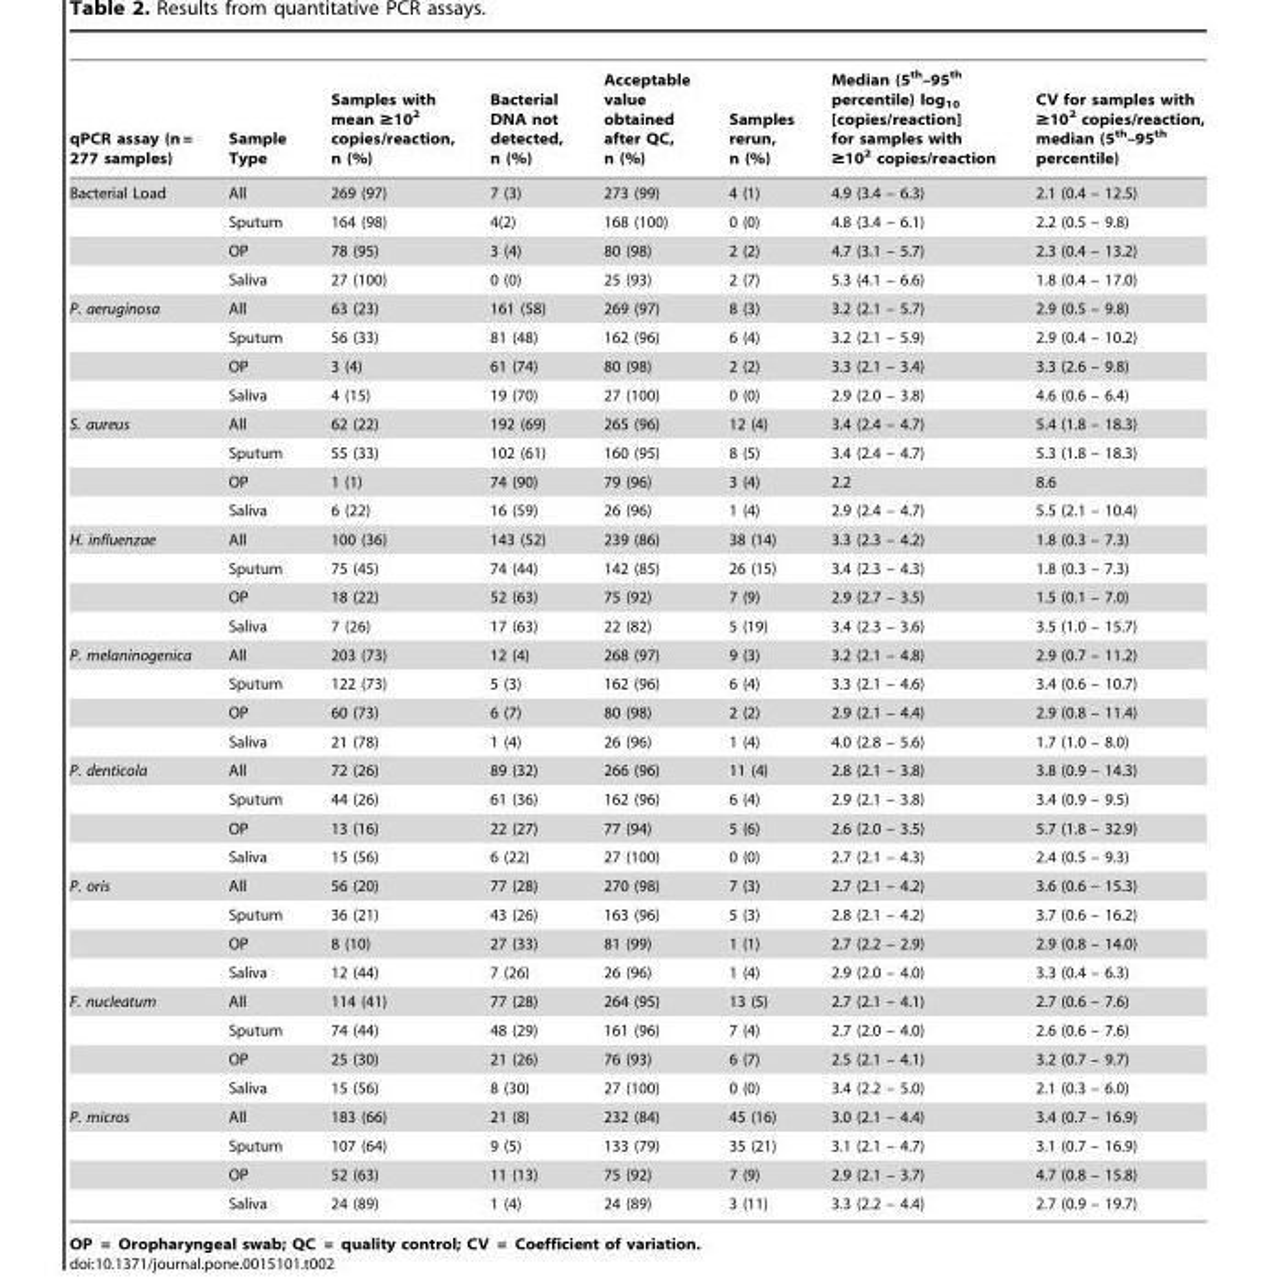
<table><thead><tr><td>qPCR assay (n = 277 samples)</td><td>Sample Type</td><td>Samples with mean ≥10<sup>2</sup> copies/reaction, n (%)</td><td>Bacterial DNA not detected, n (%)</td><td>Acceptable value obtained after QC, n (%)</td><td>Samples rerun, n (%)</td><td>Median (5<sup>th</sup>–95<sup>th</sup> percentile) log<sub>10</sub> [copies/reaction] for samples with ≥10<sup>2</sup> copies/reaction</td><td>CV for samples with ≥10<sup>2</sup> copies/reaction, median (5<sup>th</sup>–95<sup>th</sup> percentile)</td></tr></thead><tbody><tr><td rowspan="4">Bacterial Load</td><td>All</td><td>269 (97)</td><td>7 (3)</td><td>273 (99)</td><td>4 (1)</td><td>4.9 (3.4 – 6.3)</td><td>2.1 (0.4 – 12.5)</td></tr><tr><td>Sputum</td><td>164 (98)</td><td>4(2)</td><td>168 (100)</td><td>0 (0)</td><td>4.8 (3.4 – 6.1)</td><td>2.2 (0.5 – 9.8)</td></tr><tr><td>OP</td><td>78 (95)</td><td>3 (4)</td><td>80 (98)</td><td>2 (2)</td><td>4.7 (3.1 – 5.7)</td><td>2.3 (0.4 – 13.2)</td></tr><tr><td>Saliva</td><td>27 (100)</td><td>0 (0)</td><td>25 (93)</td><td>2 (7)</td><td>5.3 (4.1 – 6.6)</td><td>1.8 (0.4 – 17.0)</td></tr><tr><td rowspan="4">P. aeruginosa</td><td>All</td><td>63 (23)</td><td>161 (58)</td><td>269 (97)</td><td>8 (3)</td><td>3.2 (2.1 – 5.7)</td><td>2.9 (0.5 – 9.8)</td></tr><tr><td>Sputum</td><td>56 (33)</td><td>81 (48)</td><td>162 (96)</td><td>6 (4)</td><td>3.2 (2.1 – 5.9)</td><td>2.9 (0.4 – 10.2)</td></tr><tr><td>OP</td><td>3 (4)</td><td>61 (74)</td><td>80 (98)</td><td>2 (2)</td><td>3.3 (2.1 – 3.4)</td><td>3.3 (2.6 – 9.8)</td></tr><tr><td>Saliva</td><td>4 (15)</td><td>19 (70)</td><td>27 (100)</td><td>0 (0)</td><td>2.9 (2.0 – 3.8)</td><td>4.6 (0.6 – 6.4)</td></tr><tr><td rowspan="4">S. aureus</td><td>All</td><td>62 (22)</td><td>192 (69)</td><td>265 (96)</td><td>12 (4)</td><td>3.4 (2.4 – 4.7)</td><td>5.4 (1.8 – 18.3)</td></tr><tr><td>Sputum</td><td>55 (33)</td><td>102 (61)</td><td>160 (95)</td><td>8 (5)</td><td>3.4 (2.4 – 4.7)</td><td>5.3 (1.8 – 18.3)</td></tr><tr><td>OP</td><td>1 (1)</td><td>74 (90)</td><td>79 (96)</td><td>3 (4)</td><td>2.2</td><td>8.6</td></tr><tr><td>Saliva</td><td>6 (22)</td><td>16 (59)</td><td>26 (96)</td><td>1 (4)</td><td>2.9 (2.4 – 4.7)</td><td>5.5 (2.1 – 10.4)</td></tr><tr><td rowspan="4">H. influenzae</td><td>All</td><td>100 (36)</td><td>143 (52)</td><td>239 (86)</td><td>38 (14)</td><td>3.3 (2.3 – 4.2)</td><td>1.8 (0.3 – 7.3)</td></tr><tr><td>Sputum</td><td>75 (45)</td><td>74 (44)</td><td>142 (85)</td><td>26 (15)</td><td>3.4 (2.3 – 4.3)</td><td>1.8 (0.3 – 7.3)</td></tr><tr><td>OP</td><td>18 (22)</td><td>52 (63)</td><td>75 (92)</td><td>7 (9)</td><td>2.9 (2.7 – 3.5)</td><td>1.5 (0.1 – 7.0)</td></tr><tr><td>Saliva</td><td>7 (26)</td><td>17 (63)</td><td>22 (82)</td><td>5 (19)</td><td>3.4 (2.3 – 3.6)</td><td>3.5 (1.0 – 15.7)</td></tr><tr><td rowspan="4">P. melaninogenica</td><td>All</td><td>203 (73)</td><td>12 (4)</td><td>268 (97)</td><td>9 (3)</td><td>3.2 (2.1 – 4.8)</td><td>2.9 (0.7 – 11.2)</td></tr><tr><td>Sputum</td><td>122 (73)</td><td>5 (3)</td><td>162 (96)</td><td>6 (4)</td><td>3.3 (2.1 – 4.6)</td><td>3.4 (0.6 – 10.7)</td></tr><tr><td>OP</td><td>60 (73)</td><td>6 (7)</td><td>80 (98)</td><td>2 (2)</td><td>2.9 (2.1 – 4.4)</td><td>2.9 (0.8 – 11.4)</td></tr><tr><td>Saliva</td><td>21 (78)</td><td>1 (4)</td><td>26 (96)</td><td>1 (4)</td><td>4.0 (2.8 – 5.6)</td><td>1.7 (1.0 – 8.0)</td></tr><tr><td rowspan="4">P. denticola</td><td>All</td><td>72 (26)</td><td>89 (32)</td><td>266 (96)</td><td>11 (4)</td><td>2.8 (2.1 – 3.8)</td><td>3.8 (0.9 – 14.3)</td></tr><tr><td>Sputum</td><td>44 (26)</td><td>61 (36)</td><td>162 (96)</td><td>6 (4)</td><td>2.9 (2.1 – 3.8)</td><td>3.4 (0.9 – 9.5)</td></tr><tr><td>OP</td><td>13 (16)</td><td>22 (27)</td><td>77 (94)</td><td>5 (6)</td><td>2.6 (2.0 – 3.5)</td><td>5.7 (1.8 – 32.9)</td></tr><tr><td>Saliva</td><td>15 (56)</td><td>6 (22)</td><td>27 (100)</td><td>0 (0)</td><td>2.7 (2.1 – 4.3)</td><td>2.4 (0.5 – 9.3)</td></tr><tr><td rowspan="4">P. oris</td><td>All</td><td>56 (20)</td><td>77 (28)</td><td>270 (98)</td><td>7 (3)</td><td>2.7 (2.1 – 4.2)</td><td>3.6 (0.6 – 15.3)</td></tr><tr><td>Sputum</td><td>36 (21)</td><td>43 (26)</td><td>163 (96)</td><td>5 (3)</td><td>2.8 (2.1 – 4.2)</td><td>3.7 (0.6 – 16.2)</td></tr><tr><td>OP</td><td>8 (10)</td><td>27 (33)</td><td>81 (99)</td><td>1 (1)</td><td>2.7 (2.2 – 2.9)</td><td>2.9 (0.8 – 14.0)</td></tr><tr><td>Saliva</td><td>12 (44)</td><td>7 (26)</td><td>26 (96)</td><td>1 (4)</td><td>2.9 (2.0 – 4.0)</td><td>3.3 (0.4 – 6.3)</td></tr><tr><td rowspan="4">F. nucleatum</td><td>All</td><td>114 (41)</td><td>77 (28)</td><td>264 (95)</td><td>13 (5)</td><td>2.7 (2.1 – 4.1)</td><td>2.7 (0.6 – 7.6)</td></tr><tr><td>Sputum</td><td>74 (44)</td><td>48 (29)</td><td>161 (96)</td><td>7 (4)</td><td>2.7 (2.0 – 4.0)</td><td>2.6 (0.6 – 7.6)</td></tr><tr><td>OP</td><td>25 (30)</td><td>21 (26)</td><td>76 (93)</td><td>6 (7)</td><td>2.5 (2.1 – 4.1)</td><td>3.2 (0.7 – 9.7)</td></tr><tr><td>Saliva</td><td>15 (56)</td><td>8 (30)</td><td>27 (100)</td><td>0 (0)</td><td>3.4 (2.2 – 5.0)</td><td>2.1 (0.3 – 6.0)</td></tr><tr><td rowspan="4">P. micros</td><td>All</td><td>183 (66)</td><td>21 (8)</td><td>232 (84)</td><td>45 (16)</td><td>3.0 (2.1 – 4.4)</td><td>3.4 (0.7 – 16.9)</td></tr><tr><td>Sputum</td><td>107 (64)</td><td>9 (5)</td><td>133 (79)</td><td>35 (21)</td><td>3.1 (2.1 – 4.7)</td><td>3.1 (0.7 – 16.9)</td></tr><tr><td>OP</td><td>52 (63)</td><td>11 (13)</td><td>75 (92)</td><td>7 (9)</td><td>2.9 (2.1 – 3.7)</td><td>4.7 (0.8 – 15.8)</td></tr><tr><td>Saliva</td><td>24 (89)</td><td>1 (4)</td><td>24 (89)</td><td>3 (11)</td><td>3.3 (2.2 – 4.4)</td><td>2.7 (0.9 – 19.7)</td></tr></tbody></table>